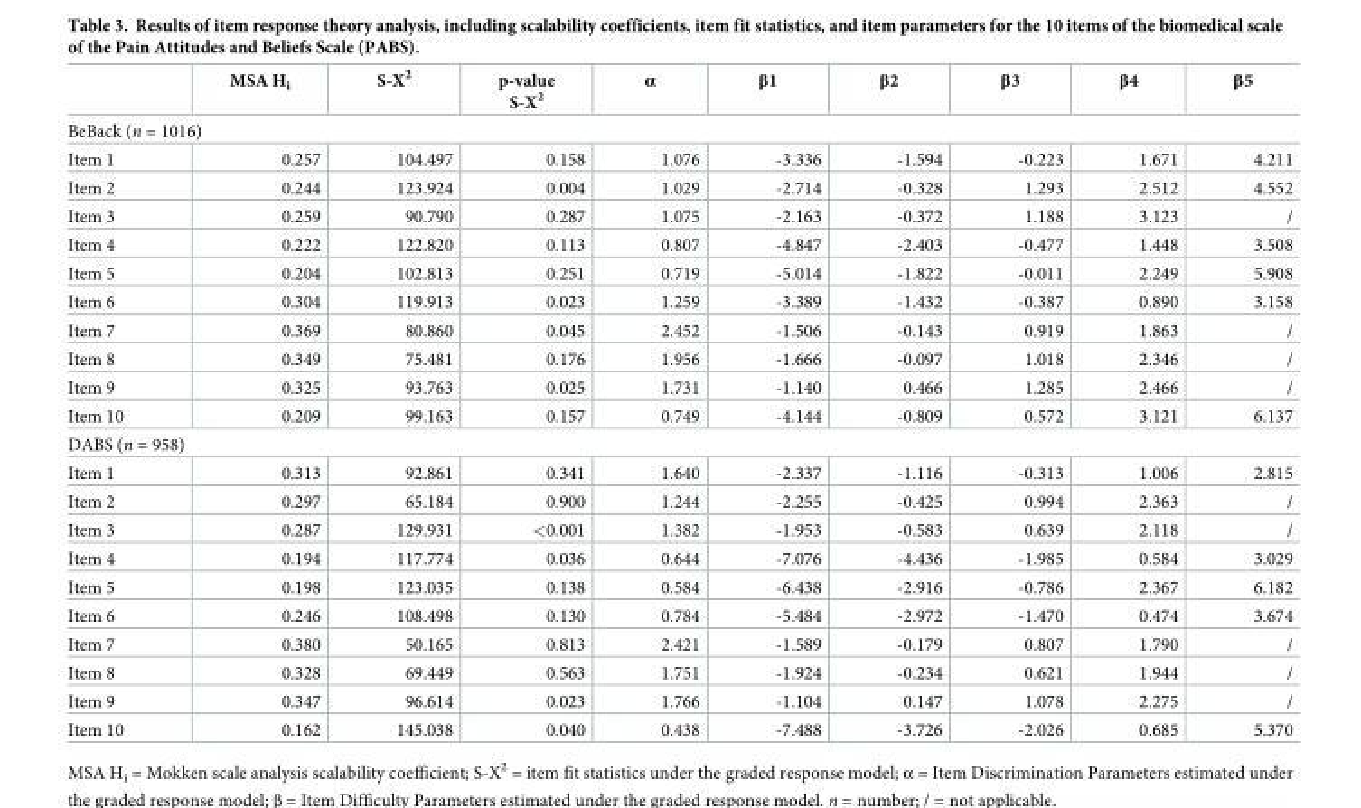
<table><thead><tr><td></td><td>MSA H<sub>i</sub></td><td>S-X<sup>2</sup></td><td>p-value S-X<sup>2</sup></td><td>α</td><td>β1</td><td>β2</td><td>β3</td><td>β4</td><td>β5</td></tr></thead><tbody><tr><td colspan="10">BeBack (n = 1016)</td></tr><tr><td>Item 1</td><td>0.257</td><td>104.497</td><td>0.158</td><td>1.076</td><td>-3.336</td><td>-1.594</td><td>-0.223</td><td>1.671</td><td>4.211</td></tr><tr><td>Item 2</td><td>0.244</td><td>123.924</td><td>0.004</td><td>1.029</td><td>-2.714</td><td>-0.328</td><td>1.293</td><td>2.512</td><td>4.552</td></tr><tr><td>Item 3</td><td>0.259</td><td>90.790</td><td>0.287</td><td>1.075</td><td>-2.163</td><td>-0.372</td><td>1.188</td><td>3.123</td><td>/</td></tr><tr><td>Item 4</td><td>0.222</td><td>122.820</td><td>0.113</td><td>0.807</td><td>-4.847</td><td>-2.403</td><td>-0.477</td><td>1.448</td><td>3.508</td></tr><tr><td>Item 5</td><td>0.204</td><td>102.813</td><td>0.251</td><td>0.719</td><td>-5.014</td><td>-1.822</td><td>-0.011</td><td>2.249</td><td>5.908</td></tr><tr><td>Item 6</td><td>0.304</td><td>119.913</td><td>0.023</td><td>1.259</td><td>-3.389</td><td>-1.432</td><td>-0.387</td><td>0.890</td><td>3.158</td></tr><tr><td>Item 7</td><td>0.369</td><td>80.860</td><td>0.045</td><td>2.452</td><td>-1.506</td><td>-0.143</td><td>0.919</td><td>1.863</td><td>/</td></tr><tr><td>Item 8</td><td>0.349</td><td>75.481</td><td>0.176</td><td>1.956</td><td>-1.666</td><td>-0.097</td><td>1.018</td><td>2.346</td><td>/</td></tr><tr><td>Item 9</td><td>0.325</td><td>93.763</td><td>0.025</td><td>1.731</td><td>-1.140</td><td>0.466</td><td>1.285</td><td>2.466</td><td>/</td></tr><tr><td>Item 10</td><td>0.209</td><td>99.163</td><td>0.157</td><td>0.749</td><td>-4.144</td><td>-0.809</td><td>0.572</td><td>3.121</td><td>6.137</td></tr><tr><td colspan="10">DABS (n = 958)</td></tr><tr><td>Item 1</td><td>0.313</td><td>92.861</td><td>0.341</td><td>1.640</td><td>-2.337</td><td>-1.116</td><td>-0.313</td><td>1.006</td><td>2.815</td></tr><tr><td>Item 2</td><td>0.297</td><td>65.184</td><td>0.900</td><td>1.244</td><td>-2.255</td><td>-0.425</td><td>0.994</td><td>2.363</td><td>/</td></tr><tr><td>Item 3</td><td>0.287</td><td>129.931</td><td>&lt;0.001</td><td>1.382</td><td>-1.953</td><td>-0.583</td><td>0.639</td><td>2.118</td><td>/</td></tr><tr><td>Item 4</td><td>0.194</td><td>117.774</td><td>0.036</td><td>0.644</td><td>-7.076</td><td>-4.436</td><td>-1.985</td><td>0.584</td><td>3.029</td></tr><tr><td>Item 5</td><td>0.198</td><td>123.035</td><td>0.138</td><td>0.584</td><td>-6.438</td><td>-2.916</td><td>-0.786</td><td>2.367</td><td>6.182</td></tr><tr><td>Item 6</td><td>0.246</td><td>108.498</td><td>0.130</td><td>0.784</td><td>-5.484</td><td>-2.972</td><td>-1.470</td><td>0.474</td><td>3.674</td></tr><tr><td>Item 7</td><td>0.380</td><td>50.165</td><td>0.813</td><td>2.421</td><td>-1.589</td><td>-0.179</td><td>0.807</td><td>1.790</td><td>/</td></tr><tr><td>Item 8</td><td>0.328</td><td>69.449</td><td>0.563</td><td>1.751</td><td>-1.924</td><td>-0.234</td><td>0.621</td><td>1.944</td><td>/</td></tr><tr><td>Item 9</td><td>0.347</td><td>96.614</td><td>0.023</td><td>1.766</td><td>-1.104</td><td>0.147</td><td>1.078</td><td>2.275</td><td>/</td></tr><tr><td>Item 10</td><td>0.162</td><td>145.038</td><td>0.040</td><td>0.438</td><td>-7.488</td><td>-3.726</td><td>-2.026</td><td>0.685</td><td>5.370</td></tr></tbody></table>